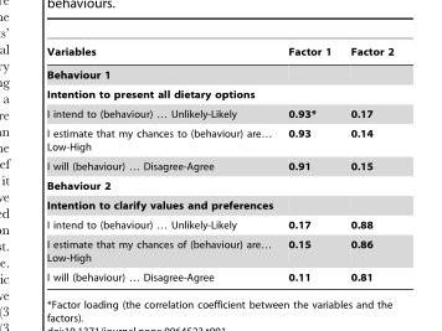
<table><thead><tr><td>Variables</td><td>Factor 1</td><td>Factor 2</td></tr></thead><tbody><tr><td colspan="3">Behaviour 1</td></tr><tr><td colspan="3">Intention to present all dietary options</td></tr><tr><td>I intend to (behaviour) … Unlikely-Likely</td><td>0.93*</td><td>0.17</td></tr><tr><td>I estimate that my chances to (behaviour) are… Low-High</td><td>0.93</td><td>0.14</td></tr><tr><td>I will (behaviour) … Disagree-Agree</td><td>0.91</td><td>0.15</td></tr><tr><td colspan="3">Behaviour 2</td></tr><tr><td colspan="3">Intention to clarify values and preferences</td></tr><tr><td>I intend to (behaviour) … Unlikely-Likely</td><td>0.17</td><td>0.88</td></tr><tr><td>I estimate that my chances of (behaviour) are… Low-High</td><td>0.15</td><td>0.86</td></tr><tr><td>I will (behaviour) … Disagree-Agree</td><td>0.11</td><td>0.81</td></tr></tbody></table>